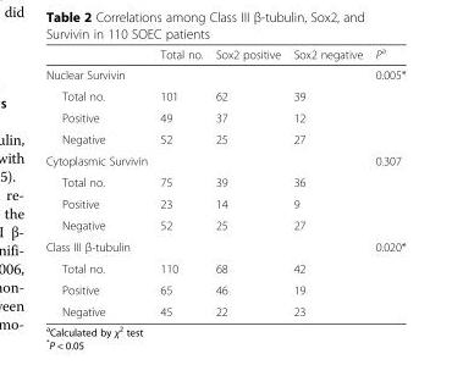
<table><thead><tr><td></td><td>Total no.</td><td>Sox2 positive</td><td>Sox2 negative</td><td>P<sup>a</sup></td></tr></thead><tbody><tr><td>Nuclear Survivin</td><td></td><td></td><td></td><td>0.005*</td></tr><tr><td>Total no.</td><td>101</td><td>62</td><td>39</td><td></td></tr><tr><td>Positive</td><td>49</td><td>37</td><td>12</td><td></td></tr><tr><td>Negative</td><td>52</td><td>25</td><td>27</td><td></td></tr><tr><td>Cytoplasmic Survivin</td><td></td><td></td><td></td><td>0.307</td></tr><tr><td>Total no.</td><td>75</td><td>39</td><td>36</td><td></td></tr><tr><td>Positive</td><td>23</td><td>14</td><td>9</td><td></td></tr><tr><td>Negative</td><td>52</td><td>25</td><td>27</td><td></td></tr><tr><td>Class III β-tubulin</td><td></td><td></td><td></td><td>0.020*</td></tr><tr><td>Total no.</td><td>110</td><td>68</td><td>42</td><td></td></tr><tr><td>Positive</td><td>65</td><td>46</td><td>19</td><td></td></tr><tr><td>Negative</td><td>45</td><td>22</td><td>23</td><td></td></tr></tbody></table>